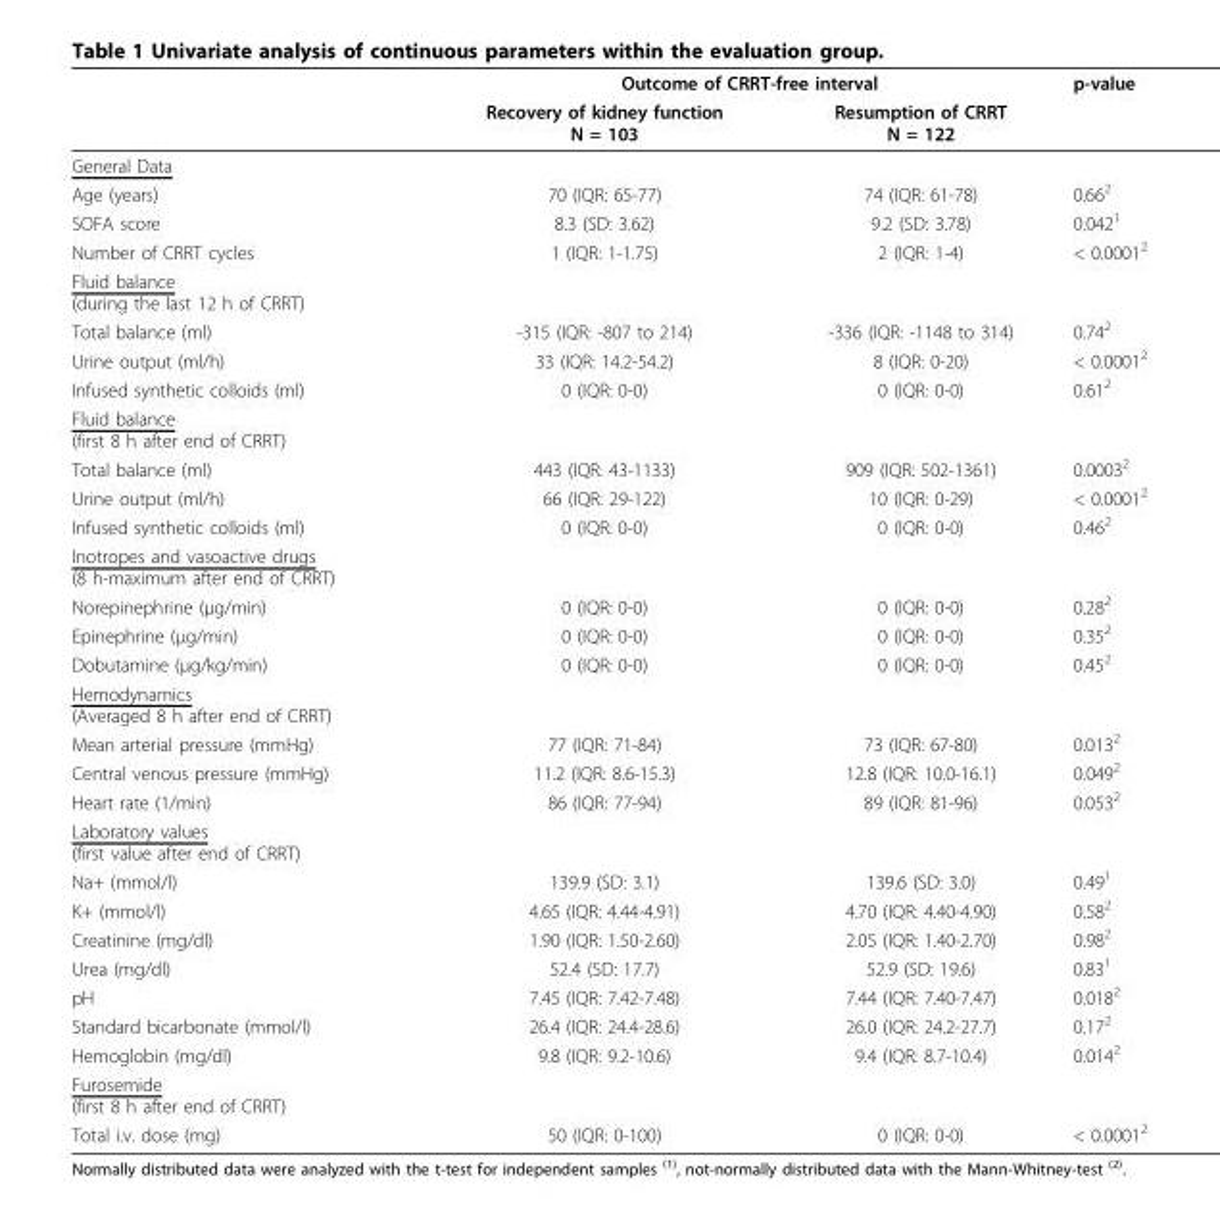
<table><thead><tr><td rowspan="2"></td><td colspan="2">Outcome of CRRT-free interval</td><td rowspan="2">p-value</td></tr><tr><td>Recovery of kidney function N = 103</td><td>Resumption of CRRT N = 122</td></tr></thead><tbody><tr><td colspan="4">General Data</td></tr><tr><td>Age (years)</td><td>70 (IQR: 65-77)</td><td>74 (IQR: 61-78)</td><td>0.66<sup>2</sup></td></tr><tr><td>SOFA score</td><td>8.3 (SD: 3.62)</td><td>9.2 (SD: 3.78)</td><td>0.042<sup>1</sup></td></tr><tr><td>Number of CRRT cycles</td><td>1 (IQR: 1-1.75)</td><td>2 (IQR: 1-4)</td><td>&lt; 0.0001<sup>2</sup></td></tr><tr><td colspan="4">Fluid balance (during the last 12 h of CRRT)</td></tr><tr><td>Total balance (ml)</td><td>-315 (IQR: -807 to 214)</td><td>-336 (IQR: -1148 to 314)</td><td>0.74<sup>2</sup></td></tr><tr><td>Urine output (ml/h)</td><td>33 (IQR: 14.2-54.2)</td><td>8 (IQR: 0-20)</td><td>&lt; 0.0001<sup>2</sup></td></tr><tr><td>Infused synthetic colloids (ml)</td><td>0 (IQR: 0-0)</td><td>0 (IQR: 0-0)</td><td>0.61<sup>2</sup></td></tr><tr><td colspan="4">Fluid balance (first 8 h after end of CRRT)</td></tr><tr><td>Total balance (ml)</td><td>443 (IQR: 43-1133)</td><td>909 (IQR: 502-1361)</td><td>0.0003<sup>2</sup></td></tr><tr><td>Urine output (ml/h)</td><td>66 (IQR: 29-122)</td><td>10 (IQR: 0-29)</td><td>&lt; 0.0001<sup>2</sup></td></tr><tr><td>Infused synthetic colloids (ml)</td><td>0 (IQR: 0-0)</td><td>0 (IQR: 0-0)</td><td>0.46<sup>2</sup></td></tr><tr><td colspan="4">Inotropes and vasoactive drugs (8 h-maximum after end of CRRT)</td></tr><tr><td>Norepinephrine (μg/min)</td><td>0 (IQR: 0-0)</td><td>0 (IQR: 0-0)</td><td>0.28<sup>2</sup></td></tr><tr><td>Epinephrine (μg/min)</td><td>0 (IQR: 0-0)</td><td>0 (IQR: 0-0)</td><td>0.35<sup>2</sup></td></tr><tr><td>Dobutamine (μg/kg/min)</td><td>0 (IQR: 0-0)</td><td>0 (IQR: 0-0)</td><td>0.45<sup>2</sup></td></tr><tr><td colspan="4">Hemodynamics (Averaged 8 h after end of CRRT)</td></tr><tr><td>Mean arterial pressure (mmHg)</td><td>77 (IQR: 71-84)</td><td>73 (IQR: 67-80)</td><td>0.013<sup>2</sup></td></tr><tr><td>Central venous pressure (mmHg)</td><td>11.2 (IQR: 8.6-15.3)</td><td>12.8 (IQR: 10.0-16.1)</td><td>0.049<sup>2</sup></td></tr><tr><td>Heart rate (1/min)</td><td>86 (IQR: 77-94)</td><td>89 (IQR: 81-96)</td><td>0.053<sup>2</sup></td></tr><tr><td colspan="4">Laboratory values (first value after end of CRRT)</td></tr><tr><td>Na+ (mmol/l)</td><td>139.9 (SD: 3.1)</td><td>139.6 (SD: 3.0)</td><td>0.49<sup>1</sup></td></tr><tr><td>K+ (mmol/l)</td><td>4.65 (IQR: 4.44-4.91)</td><td>4.70 (IQR: 4.40-4.90)</td><td>0.58<sup>2</sup></td></tr><tr><td>Creatinine (mg/dl)</td><td>1.90 (IQR: 1.50-2.60)</td><td>2.05 (IQR: 1.40-2.70)</td><td>0.98<sup>2</sup></td></tr><tr><td>Urea (mg/dl)</td><td>52.4 (SD: 17.7)</td><td>52.9 (SD: 19.6)</td><td>0.83<sup>1</sup></td></tr><tr><td>pH</td><td>7.45 (IQR: 7.42-7.48)</td><td>7.44 (IQR: 7.40-7.47)</td><td>0.018<sup>2</sup></td></tr><tr><td>Standard bicarbonate (mmol/l)</td><td>26.4 (IQR: 24.4-28.6)</td><td>26.0 (IQR: 24.2-27.7)</td><td>0.17<sup>2</sup></td></tr><tr><td>Hemoglobin (mg/dl)</td><td>9.8 (IQR: 9.2-10.6)</td><td>9.4 (IQR: 8.7-10.4)</td><td>0.014<sup>2</sup></td></tr><tr><td colspan="4">Furosemide (first 8 h after end of CRRT)</td></tr><tr><td>Total i.v. dose (mg)</td><td>50 (IQR: 0-100)</td><td>0 (IQR: 0-0)</td><td>&lt; 0.0001<sup>2</sup></td></tr></tbody></table>